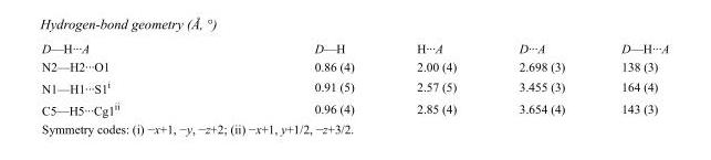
<table><tbody><tr><td>D—H···A</td><td>D—H</td><td>H···A</td><td>D···A</td><td>D—H···A</td></tr><tr><td>N2—H2···O1</td><td>0.86 (4)</td><td>2.00 (4)</td><td>2.698 (3)</td><td>138 (3)</td></tr><tr><td>N1—H1···S1<sup>i</sup></td><td>0.91 (5)</td><td>2.57 (5)</td><td>3.455 (3)</td><td>164 (4)</td></tr><tr><td>C5—H5···Cg1<sup>ii</sup></td><td>0.96 (4)</td><td>2.85 (4)</td><td>3.654 (4)</td><td>143 (3)</td></tr></tbody></table>